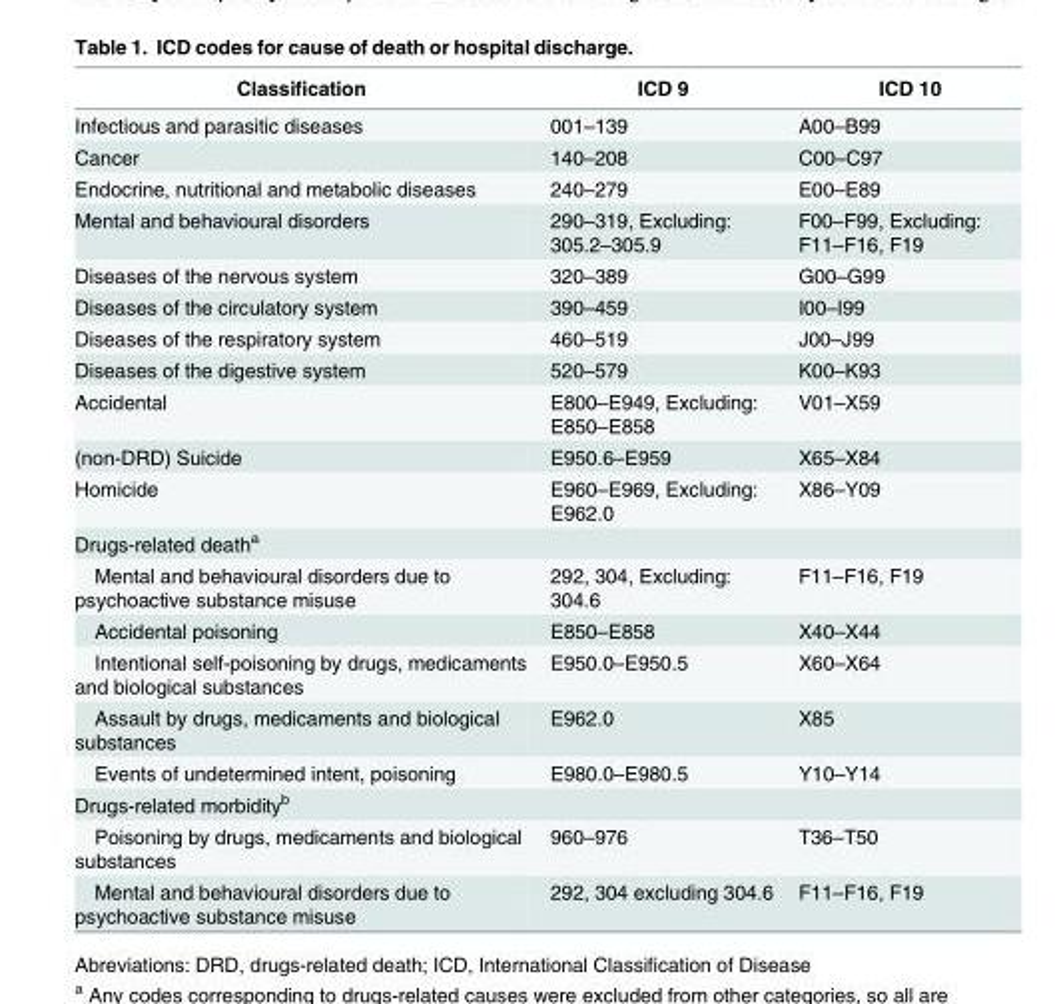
<table><thead><tr><td>Classification</td><td>ICD 9</td><td>ICD 10</td></tr></thead><tbody><tr><td>Infectious and parasitic diseases</td><td>001–139</td><td>A00–B99</td></tr><tr><td>Cancer</td><td>140–208</td><td>C00–C97</td></tr><tr><td>Endocrine, nutritional and metabolic diseases</td><td>240–279</td><td>E00–E89</td></tr><tr><td>Mental and behavioural disorders</td><td>290–319, Excluding: 305.2–305.9</td><td>F00–F99, Excluding: F11–F16, F19</td></tr><tr><td>Diseases of the nervous system</td><td>320–389</td><td>G00–G99</td></tr><tr><td>Diseases of the circulatory system</td><td>390–459</td><td>I00–I99</td></tr><tr><td>Diseases of the respiratory system</td><td>460–519</td><td>J00–J99</td></tr><tr><td>Diseases of the digestive system</td><td>520–579</td><td>K00–K93</td></tr><tr><td>Accidental</td><td>E800–E949, Excluding: E850–E858</td><td>V01–X59</td></tr><tr><td>(non-DRD) Suicide</td><td>E950.6–E959</td><td>X65–X84</td></tr><tr><td>Homicide</td><td>E960–E969, Excluding: E962.0</td><td>X86–Y09</td></tr><tr><td colspan="3">Drugs-related death<sup>a</sup></td></tr><tr><td>Mental and behavioural disorders due to psychoactive substance misuse</td><td>292, 304, Excluding: 304.6</td><td>F11–F16, F19</td></tr><tr><td>Accidental poisoning</td><td>E850–E858</td><td>X40–X44</td></tr><tr><td>Intentional self-poisoning by drugs, medicaments and biological substances</td><td>E950.0–E950.5</td><td>X60–X64</td></tr><tr><td>Assault by drugs, medicaments and biological substances</td><td>E962.0</td><td>X85</td></tr><tr><td>Events of undetermined intent, poisoning</td><td>E980.0–E980.5</td><td>Y10–Y14</td></tr><tr><td colspan="3">Drugs-related morbidity<sup>b</sup></td></tr><tr><td>Poisoning by drugs, medicaments and biological substances</td><td>960–976</td><td>T36–T50</td></tr><tr><td>Mental and behavioural disorders due to psychoactive substance misuse</td><td>292, 304 excluding 304.6</td><td>F11–F16, F19</td></tr></tbody></table>